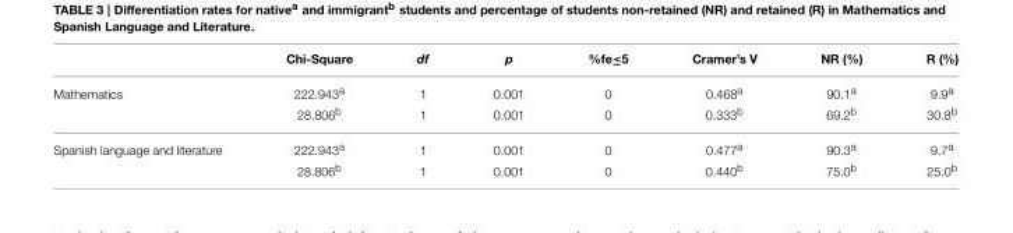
<table><thead><tr><td></td><td>Chi-Square</td><td>df</td><td>p</td><td>%fe≤5</td><td>Cramer’s V</td><td>NR (%)</td><td>R (%)</td></tr></thead><tbody><tr><td rowspan="2">Mathematics</td><td>222.943<sup>a</sup></td><td>1</td><td>0.001</td><td>0</td><td>0.468<sup>a</sup></td><td>90.1<sup>a</sup></td><td>9.9<sup>a</sup></td></tr><tr><td>28.806<sup>b</sup></td><td>1</td><td>0.001</td><td>0</td><td>0.333<sup>b</sup></td><td>69.2<sup>b</sup></td><td>30.8<sup>b</sup></td></tr><tr><td rowspan="2">Spanish language and literature</td><td>222.943<sup>a</sup></td><td>1</td><td>0.001</td><td>0</td><td>0.477<sup>a</sup></td><td>90.3<sup>a</sup></td><td>9.7<sup>a</sup></td></tr><tr><td>28.806<sup>b</sup></td><td>1</td><td>0.001</td><td>0</td><td>0.440<sup>b</sup></td><td>75.0<sup>b</sup></td><td>25.0<sup>b</sup></td></tr></tbody></table>